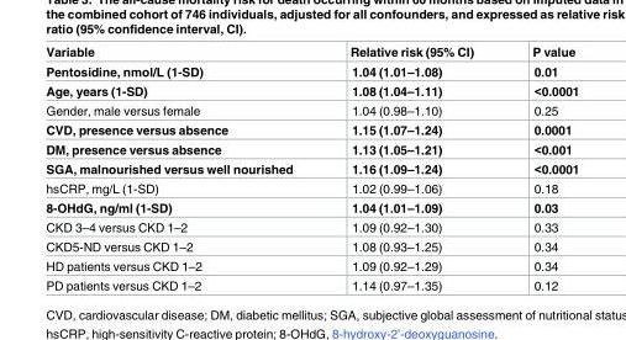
<table><thead><tr><td>Variable</td><td>Relative risk (95% CI)</td><td>P value</td></tr></thead><tbody><tr><td>Pentosidine, nmol/L (1-SD)</td><td>1.04 (1.01–1.08)</td><td>0.01</td></tr><tr><td>Age, years (1-SD)</td><td>1.08 (1.04–1.11)</td><td>&lt;0.0001</td></tr><tr><td>Gender, male versus female</td><td>1.04 (0.98–1.10)</td><td>0.25</td></tr><tr><td>CVD, presence versus absence</td><td>1.15 (1.07–1.24)</td><td>0.0001</td></tr><tr><td>DM, presence versus absence</td><td>1.13 (1.05–1.21)</td><td>&lt;0.001</td></tr><tr><td>SGA, malnourished versus well nourished</td><td>1.16 (1.09–1.24)</td><td>&lt;0.0001</td></tr><tr><td>hsCRP, mg/L (1-SD)</td><td>1.02 (0.99–1.06)</td><td>0.18</td></tr><tr><td>8-OHdG, ng/ml (1-SD)</td><td>1.04 (1.01–1.09)</td><td>0.03</td></tr><tr><td>CKD 3–4 versus CKD 1–2</td><td>1.09 (0.92–1.30)</td><td>0.33</td></tr><tr><td>CKD5-ND versus CKD 1–2</td><td>1.08 (0.93–1.25)</td><td>0.34</td></tr><tr><td>HD patients versus CKD 1–2</td><td>1.09 (0.92–1.29)</td><td>0.34</td></tr><tr><td>PD patients versus CKD 1–2</td><td>1.14 (0.97–1.35)</td><td>0.12</td></tr></tbody></table>